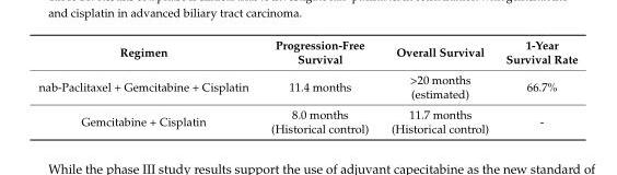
<table><thead><tr><td>Regimen</td><td>Progression-Free Survival</td><td>Overall Survival</td><td>1-Year Survival Rate</td></tr></thead><tbody><tr><td>nab-Paclitaxel + Gemcitabine + Cisplatin</td><td>11.4 months</td><td>&gt;20 months (estimated)</td><td>66.7%</td></tr><tr><td>Gemcitabine + Cisplatin</td><td>8.0 months (Historical control)</td><td>11.7 months (Historical control)</td><td>-</td></tr></tbody></table>